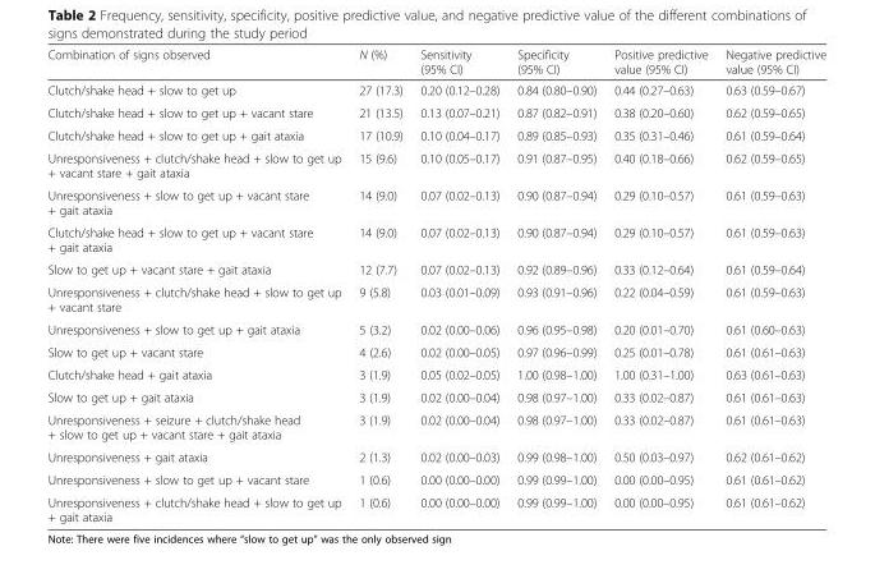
<table><thead><tr><td>Combination of signs observed</td><td>N (%)</td><td>Sensitivity (95% CI)</td><td>Specificity (95% CI)</td><td>Positive predictive value (95% CI)</td><td>Negative predictive value (95% CI)</td></tr></thead><tbody><tr><td>Clutch/shake head + slow to get up</td><td>27 (17.3)</td><td>0.20 (0.12–0.28)</td><td>0.84 (0.80–0.90)</td><td>0.44 (0.27–0.63)</td><td>0.63 (0.59–0.67)</td></tr><tr><td>Clutch/shake head + slow to get up + vacant stare</td><td>21 (13.5)</td><td>0.13 (0.07–0.21)</td><td>0.87 (0.82–0.91)</td><td>0.38 (0.20–0.60)</td><td>0.62 (0.59–0.65)</td></tr><tr><td>Clutch/shake head + slow to get up + gait ataxia</td><td>17 (10.9)</td><td>0.10 (0.04–0.17)</td><td>0.89 (0.85–0.93)</td><td>0.35 (0.31–0.46)</td><td>0.61 (0.59–0.64)</td></tr><tr><td>Unresponsiveness + clutch/shake head + slow to get up + vacant stare + gait ataxia</td><td>15 (9.6)</td><td>0.10 (0.05–0.17)</td><td>0.91 (0.87–0.95)</td><td>0.40 (0.18–0.66)</td><td>0.62 (0.59–0.65)</td></tr><tr><td>Unresponsiveness + slow to get up + vacant stare + gait ataxia</td><td>14 (9.0)</td><td>0.07 (0.02–0.13)</td><td>0.90 (0.87–0.94)</td><td>0.29 (0.10–0.57)</td><td>0.61 (0.59–0.63)</td></tr><tr><td>Clutch/shake head + slow to get up + vacant stare + gait ataxia</td><td>14 (9.0)</td><td>0.07 (0.02–0.13)</td><td>0.90 (0.87–0.94)</td><td>0.29 (0.10–0.57)</td><td>0.61 (0.59–0.63)</td></tr><tr><td>Slow to get up + vacant stare + gait ataxia</td><td>12 (7.7)</td><td>0.07 (0.02–0.13)</td><td>0.92 (0.89–0.96)</td><td>0.33 (0.12–0.64)</td><td>0.61 (0.59–0.64)</td></tr><tr><td>Unresponsiveness + clutch/shake head + slow to get up + vacant stare</td><td>9 (5.8)</td><td>0.03 (0.01–0.09)</td><td>0.93 (0.91–0.96)</td><td>0.22 (0.04–0.59)</td><td>0.61 (0.59–0.63)</td></tr><tr><td>Unresponsiveness + slow to get up + gait ataxia</td><td>5 (3.2)</td><td>0.02 (0.00–0.06)</td><td>0.96 (0.95–0.98)</td><td>0.20 (0.01–0.70)</td><td>0.61 (0.60–0.63)</td></tr><tr><td>Slow to get up + vacant stare</td><td>4 (2.6)</td><td>0.02 (0.00–0.05)</td><td>0.97 (0.96–0.99)</td><td>0.25 (0.01–0.78)</td><td>0.61 (0.61–0.63)</td></tr><tr><td>Clutch/shake head + gait ataxia</td><td>3 (1.9)</td><td>0.05 (0.02–0.05)</td><td>1.00 (0.98–1.00)</td><td>1.00 (0.31–1.00)</td><td>0.63 (0.61–0.63)</td></tr><tr><td>Slow to get up + gait ataxia</td><td>3 (1.9)</td><td>0.02 (0.00–0.04)</td><td>0.98 (0.97–1.00)</td><td>0.33 (0.02–0.87)</td><td>0.61 (0.61–0.63)</td></tr><tr><td>Unresponsiveness + seizure + clutch/shake head + slow to get up + vacant stare + gait ataxia</td><td>3 (1.9)</td><td>0.02 (0.00–0.04)</td><td>0.98 (0.97–1.00)</td><td>0.33 (0.02–0.87)</td><td>0.61 (0.61–0.63)</td></tr><tr><td>Unresponsiveness + gait ataxia</td><td>2 (1.3)</td><td>0.02 (0.00–0.03)</td><td>0.99 (0.98–1.00)</td><td>0.50 (0.03–0.97)</td><td>0.62 (0.61–0.62)</td></tr><tr><td>Unresponsiveness + slow to get up + vacant stare</td><td>1 (0.6)</td><td>0.00 (0.00–0.00)</td><td>0.99 (0.99–1.00)</td><td>0.00 (0.00–0.95)</td><td>0.61 (0.61–0.62)</td></tr><tr><td>Unresponsiveness + clutch/shake head + slow to get up + gait ataxia</td><td>1 (0.6)</td><td>0.00 (0.00–0.00)</td><td>0.99 (0.99–1.00)</td><td>0.00 (0.00–0.95)</td><td>0.61 (0.61–0.62)</td></tr></tbody></table>